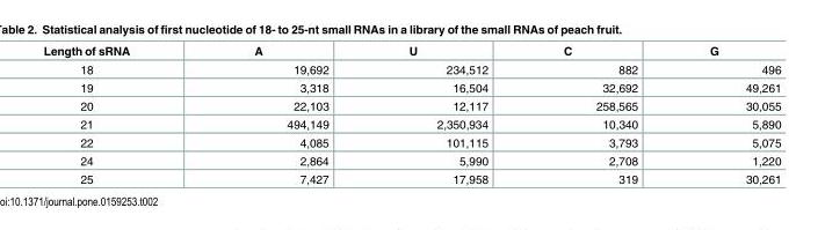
<table><thead><tr><td>Length of sRNA</td><td>A</td><td>U</td><td>C</td><td>G</td></tr></thead><tbody><tr><td>18</td><td>19,692</td><td>234,512</td><td>882</td><td>496</td></tr><tr><td>19</td><td>3,318</td><td>16,504</td><td>32,692</td><td>49,261</td></tr><tr><td>20</td><td>22,103</td><td>12,117</td><td>258,565</td><td>30,055</td></tr><tr><td>21</td><td>494,149</td><td>2,350,934</td><td>10,340</td><td>5,890</td></tr><tr><td>22</td><td>4,085</td><td>101,115</td><td>3,793</td><td>5,075</td></tr><tr><td>24</td><td>2,864</td><td>5,990</td><td>2,708</td><td>1,220</td></tr><tr><td>25</td><td>7,427</td><td>17,958</td><td>319</td><td>30,261</td></tr></tbody></table>